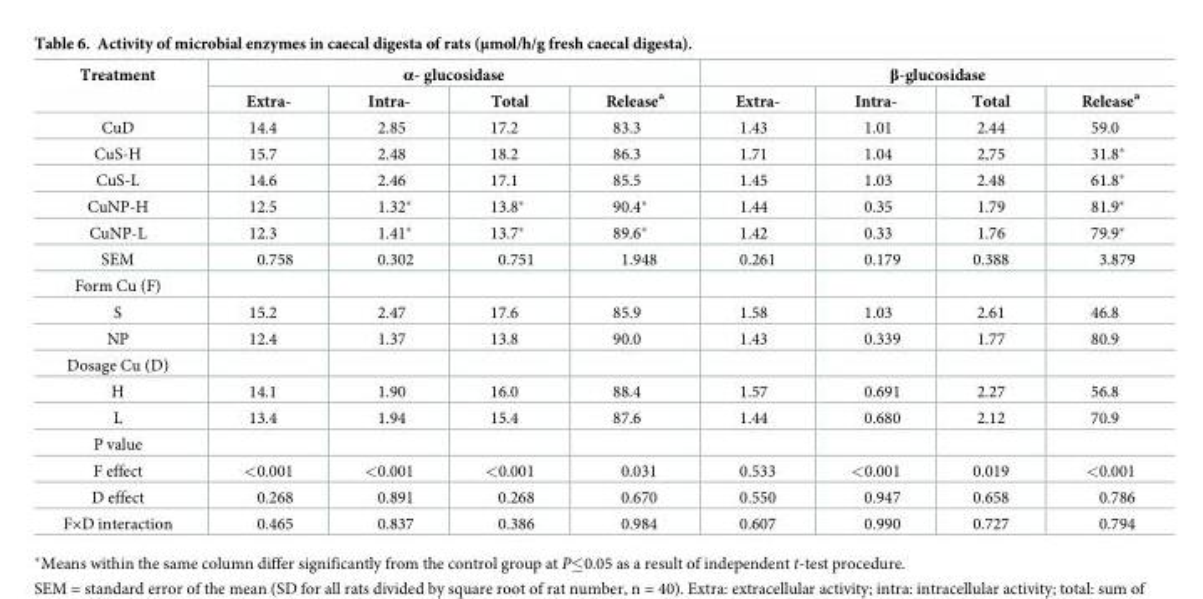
<table><thead><tr><td rowspan="2">Treatment</td><td colspan="4">α- glucosidase</td><td colspan="4">β-glucosidase</td></tr><tr><td>Extra-</td><td>Intra-</td><td>Total</td><td>Release<sup>a</sup></td><td>Extra-</td><td>Intra-</td><td>Total</td><td>Release<sup>a</sup></td></tr></thead><tbody><tr><td>CuD</td><td>14.4</td><td>2.85</td><td>17.2</td><td>83.3</td><td>1.43</td><td>1.01</td><td>2.44</td><td>59.0</td></tr><tr><td>CuS-H</td><td>15.7</td><td>2.48</td><td>18.2</td><td>86.3</td><td>1.71</td><td>1.04</td><td>2,75</td><td>31.8*</td></tr><tr><td>CuS-L</td><td>14.6</td><td>2.46</td><td>17.1</td><td>85.5</td><td>1.45</td><td>1.03</td><td>2.48</td><td>61.8*</td></tr><tr><td>CuNP-H</td><td>12.5</td><td>1.32*</td><td>13.8*</td><td>90.4*</td><td>1.44</td><td>0.35</td><td>1.79</td><td>81.9*</td></tr><tr><td>CuNP-L</td><td>12.3</td><td>1.41*</td><td>13.7*</td><td>89.6*</td><td>1.42</td><td>0.33</td><td>1.76</td><td>79.9*</td></tr><tr><td>SEM</td><td>0.758</td><td>0.302</td><td>0.751</td><td>1.948</td><td>0.261</td><td>0.179</td><td>0.388</td><td>3.879</td></tr><tr><td colspan="9">Form Cu (F)</td></tr><tr><td>S</td><td>15.2</td><td>2.47</td><td>17.6</td><td>85.9</td><td>1.58</td><td>1.03</td><td>2.61</td><td>46.8</td></tr><tr><td>NP</td><td>12.4</td><td>1.37</td><td>13.8</td><td>90.0</td><td>1.43</td><td>0.339</td><td>1.77</td><td>80.9</td></tr><tr><td colspan="9">Dosage Cu (D)</td></tr><tr><td>H</td><td>14.1</td><td>1.90</td><td>16.0</td><td>88.4</td><td>1.57</td><td>0.691</td><td>2.27</td><td>56.8</td></tr><tr><td>L</td><td>13.4</td><td>1.94</td><td>15.4</td><td>87.6</td><td>1.44</td><td>0.680</td><td>2.12</td><td>70.9</td></tr><tr><td colspan="9">P value</td></tr><tr><td>F effect</td><td>&lt;0.001</td><td>&lt;0.001</td><td>&lt;0.001</td><td>0.031</td><td>0.533</td><td>&lt;0.001</td><td>0.019</td><td>&lt;0.001</td></tr><tr><td>D effect</td><td>0.268</td><td>0.891</td><td>0.268</td><td>0.670</td><td>0.550</td><td>0.947</td><td>0.658</td><td>0.786</td></tr><tr><td>F×D interaction</td><td>0.465</td><td>0.837</td><td>0.386</td><td>0.984</td><td>0.607</td><td>0.990</td><td>0.727</td><td>0.794</td></tr></tbody></table>